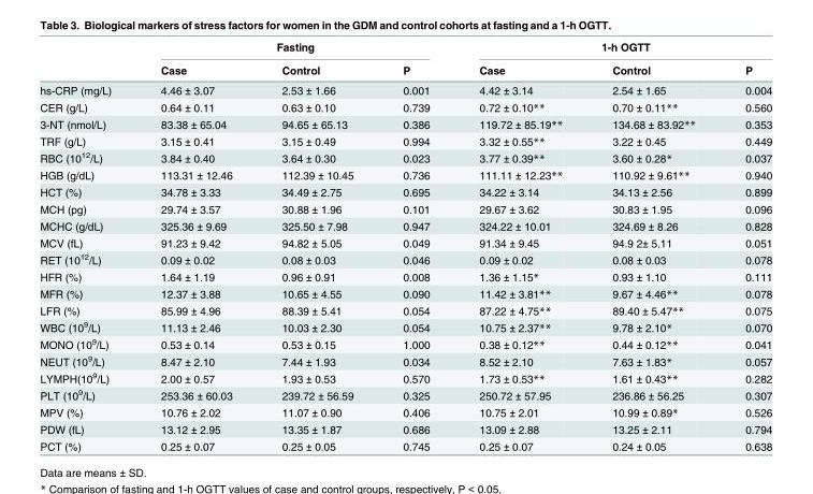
<table><thead><tr><td rowspan="2"></td><td colspan="3">Fasting</td><td colspan="3">1-h OGTT</td></tr><tr><td>Case</td><td>Control</td><td>P</td><td>Case</td><td>Control</td><td>P</td></tr></thead><tbody><tr><td>hs-CRP (mg/L)</td><td>4.46 ± 3.07</td><td>2.53 ± 1.66</td><td>0.001</td><td>4.42 ± 3.14</td><td>2.54 ± 1.65</td><td>0.004</td></tr><tr><td>CER (g/L)</td><td>0.64 ± 0.11</td><td>0.63 ± 0.10</td><td>0.739</td><td>0.72 ± 0.10**</td><td>0.70 ± 0.11**</td><td>0.560</td></tr><tr><td>3-NT (nmol/L)</td><td>83.38 ± 65.04</td><td>94.65 ± 65.13</td><td>0.386</td><td>119.72 ± 85.19**</td><td>134.68 ± 83.92**</td><td>0.353</td></tr><tr><td>TRF (g/L)</td><td>3.15 ± 0.41</td><td>3.15 ± 0.49</td><td>0.994</td><td>3.32 ± 0.55**</td><td>3.22 ± 0.45</td><td>0.449</td></tr><tr><td>RBC (10<sup>12</sup>/L)</td><td>3.84 ± 0.40</td><td>3.64 ± 0.30</td><td>0.023</td><td>3.77 ± 0.39**</td><td>3.60 ± 0.28*</td><td>0.037</td></tr><tr><td>HGB (g/dL)</td><td>113.31 ± 12.46</td><td>112.39 ± 10.45</td><td>0.736</td><td>111.11 ± 12.23**</td><td>110.92 ± 9.61**</td><td>0.940</td></tr><tr><td>HCT (%)</td><td>34.78 ± 3.33</td><td>34.49 ± 2.75</td><td>0.695</td><td>34.22 ± 3.14</td><td>34.13 ± 2.56</td><td>0.899</td></tr><tr><td>MCH (pg)</td><td>29.74 ± 3.57</td><td>30.88 ± 1.96</td><td>0.101</td><td>29.67 ± 3.62</td><td>30.83 ± 1.95</td><td>0.096</td></tr><tr><td>MCHC (g/dL)</td><td>325.36 ± 9.69</td><td>325.50 ± 7.98</td><td>0.947</td><td>324.22 ± 10.01</td><td>324.69 ± 8.26</td><td>0.828</td></tr><tr><td>MCV (fL)</td><td>91.23 ± 9.42</td><td>94.82 ± 5.05</td><td>0.049</td><td>91.34 ± 9.45</td><td>94.9 2± 5.11</td><td>0.051</td></tr><tr><td>RET (10<sup>12</sup>/L)</td><td>0.09 ± 0.02</td><td>0.08 ± 0.03</td><td>0.046</td><td>0.09 ± 0.02</td><td>0.08 ± 0.03</td><td>0.078</td></tr><tr><td>HFR (%)</td><td>1.64 ± 1.19</td><td>0.96 ± 0.91</td><td>0.008</td><td>1.36 ± 1.15*</td><td>0.93 ± 1.10</td><td>0.111</td></tr><tr><td>MFR (%)</td><td>12.37 ± 3.88</td><td>10.65 ± 4.55</td><td>0.090</td><td>11.42 ± 3.81**</td><td>9.67 ± 4.46**</td><td>0.078</td></tr><tr><td>LFR (%)</td><td>85.99 ± 4.96</td><td>88.39 ± 5.41</td><td>0.054</td><td>87.22 ± 4.75**</td><td>89.40 ± 5.47**</td><td>0.075</td></tr><tr><td>WBC (10<sup>9</sup>/L)</td><td>11.13 ± 2.46</td><td>10.03 ± 2.30</td><td>0.054</td><td>10.75 ± 2.37**</td><td>9.78 ± 2.10*</td><td>0.070</td></tr><tr><td>MONO (10<sup>9</sup>/L)</td><td>0.53 ± 0.14</td><td>0.53 ± 0.15</td><td>1.000</td><td>0.38 ± 0.12**</td><td>0.44 ± 0.12**</td><td>0.041</td></tr><tr><td>NEUT (10<sup>9</sup>/L)</td><td>8.47 ± 2.10</td><td>7.44 ± 1.93</td><td>0.034</td><td>8.52 ± 2.10</td><td>7.63 ± 1.83*</td><td>0.057</td></tr><tr><td>LYMPH(10<sup>9</sup>/L)</td><td>2.00 ± 0.57</td><td>1.93 ± 0.53</td><td>0.570</td><td>1.73 ± 0.53**</td><td>1.61 ± 0.43**</td><td>0.282</td></tr><tr><td>PLT (10<sup>9</sup>/L)</td><td>253.36 ± 60.03</td><td>239.72 ± 56.59</td><td>0.325</td><td>250.72 ± 57.95</td><td>236.86 ± 56.25</td><td>0.307</td></tr><tr><td>MPV (%)</td><td>10.76 ± 2.02</td><td>11.07 ± 0.90</td><td>0.406</td><td>10.75 ± 2.01</td><td>10.99 ± 0.89*</td><td>0.526</td></tr><tr><td>PDW (fL)</td><td>13.12 ± 2.95</td><td>13.35 ± 1.87</td><td>0.686</td><td>13.09 ± 2.88</td><td>13.25 ± 2.11</td><td>0.794</td></tr><tr><td>PCT (%)</td><td>0.25 ± 0.07</td><td>0.25 ± 0.05</td><td>0.745</td><td>0.25 ± 0.07</td><td>0.24 ± 0.05</td><td>0.638</td></tr></tbody></table>